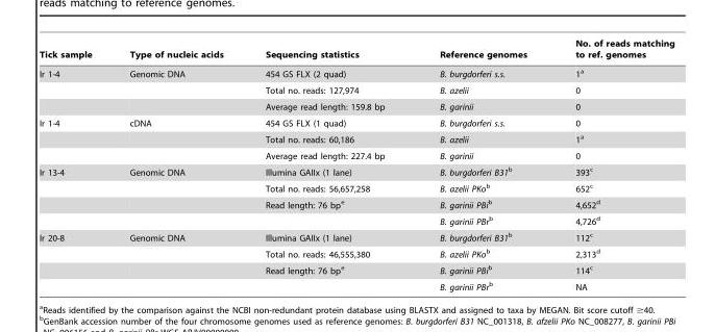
<table><thead><tr><td>Tick sample</td><td>Type of nucleic acids</td><td>Sequencing statistics</td><td>Reference genomes</td><td>No. of reads matching to ref. genomes</td></tr></thead><tbody><tr><td rowspan="3">Ir 1-4</td><td>Genomic DNA</td><td>454 GS FLX (2 quad)</td><td>B. burgdorferi s.s.</td><td>1<sup>a</sup></td></tr><tr><td></td><td>Total no. reads: 127,974</td><td>B. azelii</td><td>0</td></tr><tr><td></td><td>Average read length: 159.8 bp</td><td>B. garinii</td><td>0</td></tr><tr><td rowspan="3">Ir 1-4</td><td>cDNA</td><td>454 GS FLX (1 quad)</td><td>B. burgdorferi s.s.</td><td>0</td></tr><tr><td></td><td>Total no. reads: 60,186</td><td>B. azelii</td><td>1<sup>a</sup></td></tr><tr><td></td><td>Average read length: 227.4 bp</td><td>B. garinii</td><td>0</td></tr><tr><td rowspan="4">Ir 13-4</td><td>Genomic DNA</td><td>Illumina GAIIx (1 lane)</td><td>B. burgdorferi B31b</td><td>393<sup>c</sup></td></tr><tr><td></td><td>Total no. reads: 56,657,258</td><td>B. azelii PKob</td><td>652<sup>c</sup></td></tr><tr><td></td><td>Read length: 76 bp<sup>e</sup></td><td>B. garinii PBib</td><td>4,652<sup>d</sup></td></tr><tr><td></td><td></td><td>B. garinii PBrb</td><td>4,726<sup>d</sup></td></tr><tr><td rowspan="4">Ir 20-8</td><td>Genomic DNA</td><td>Illumina GAIIx (1 lane)</td><td>B. burgdorferi B31b</td><td>112<sup>c</sup></td></tr><tr><td></td><td>Total no. reads: 46,555,380</td><td>B. azelii PKob</td><td>2,313<sup>d</sup></td></tr><tr><td></td><td>Read length: 76 bp<sup>e</sup></td><td>B. garinii PBib</td><td>114<sup>c</sup></td></tr><tr><td></td><td></td><td>B. garinii PBrb</td><td>NA</td></tr></tbody></table>